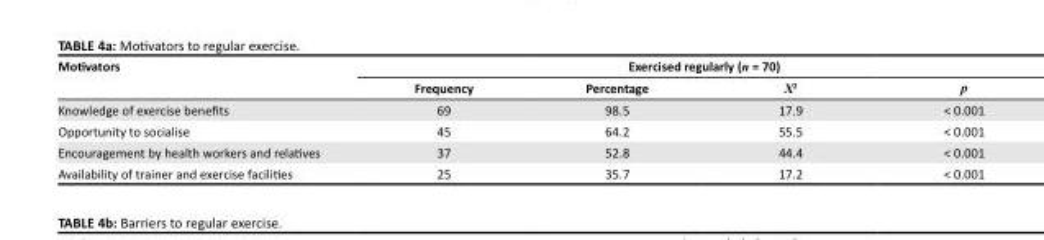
<table><thead><tr><td rowspan="2">Motivators</td><td colspan="4">Exercised regularly (n = 70)</td></tr><tr><td>Frequency</td><td>Percentage</td><td>X<sup>2</sup></td><td>p</td></tr></thead><tbody><tr><td>Knowledge of exercise benefits</td><td>69</td><td>98.5</td><td>17.9</td><td>&lt; 0.001</td></tr><tr><td>Opportunity to socialise</td><td>45</td><td>64.2</td><td>55.5</td><td>&lt; 0.001</td></tr><tr><td>Encouragement by health workers and relatives</td><td>37</td><td>52.8</td><td>44.4</td><td>&lt; 0.001</td></tr><tr><td>Availability of trainer and exercise facilities</td><td>25</td><td>35.7</td><td>17.2</td><td>&lt; 0.001</td></tr></tbody></table>